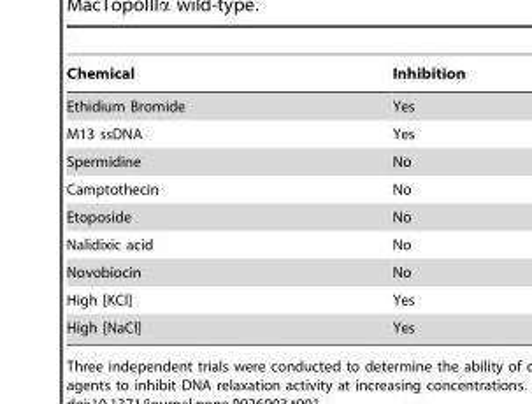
<table><thead><tr><td>Chemical</td><td>Inhibition</td></tr></thead><tbody><tr><td>Ethidium Bromide</td><td>Yes</td></tr><tr><td>M13 ssDNA</td><td>Yes</td></tr><tr><td>Spermidine</td><td>No</td></tr><tr><td>Camptothecin</td><td>No</td></tr><tr><td>Etoposide</td><td>No</td></tr><tr><td>Nalidixic acid</td><td>No</td></tr><tr><td>Novobiocin</td><td>No</td></tr><tr><td>High [KCl]</td><td>Yes</td></tr><tr><td>High [NaCl]</td><td>Yes</td></tr></tbody></table>